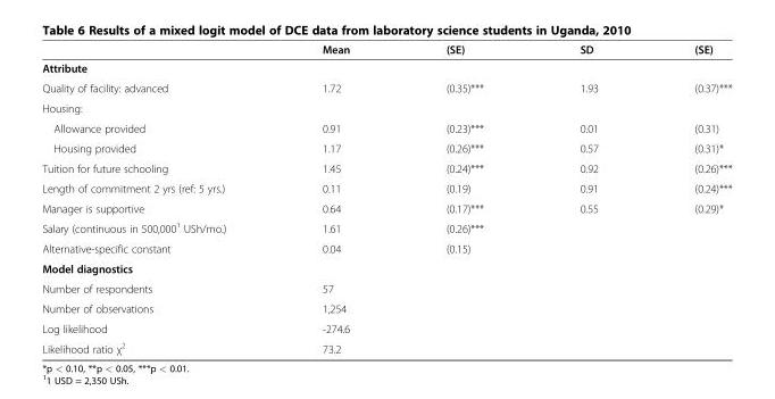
<table><thead><tr><td></td><td>Mean</td><td>(SE)</td><td>SD</td><td>(SE)</td></tr></thead><tbody><tr><td colspan="5">Attribute</td></tr><tr><td>Quality of facility: advanced</td><td>1.72</td><td>(0.35)***</td><td>1.93</td><td>(0.37)***</td></tr><tr><td colspan="5">Housing:</td></tr><tr><td>Allowance provided</td><td>0.91</td><td>(0.23)***</td><td>0.01</td><td>(0.31)</td></tr><tr><td>Housing provided</td><td>1.17</td><td>(0.26)***</td><td>0.57</td><td>(0.31)*</td></tr><tr><td>Tuition for future schooling</td><td>1.45</td><td>(0.24)***</td><td>0.92</td><td>(0.26)***</td></tr><tr><td>Length of commitment 2 yrs (ref: 5 yrs.)</td><td>0.11</td><td>(0.19)</td><td>0.91</td><td>(0.24)***</td></tr><tr><td>Manager is supportive</td><td>0.64</td><td>(0.17)***</td><td>0.55</td><td>(0.29)*</td></tr><tr><td>Salary (continuous in 500,000<sup>1</sup> USh/mo.)</td><td>1.61</td><td>(0.26)***</td><td></td><td></td></tr><tr><td>Alternative-specific constant</td><td>0.04</td><td>(0.15)</td><td></td><td></td></tr><tr><td colspan="5">Model diagnostics</td></tr><tr><td>Number of respondents</td><td>57</td><td></td><td></td><td></td></tr><tr><td>Number of observations</td><td>1,254</td><td></td><td></td><td></td></tr><tr><td>Log likelihood</td><td>-274.6</td><td></td><td></td><td></td></tr><tr><td>Likelihood ratio χ<sup>2</sup></td><td>73.2</td><td></td><td></td><td></td></tr></tbody></table>